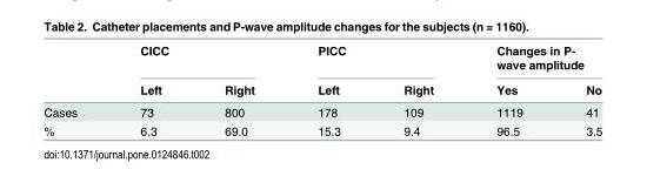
<table><thead><tr><td rowspan="2"></td><td colspan="2">CICC</td><td colspan="2">PICC</td><td colspan="2">Changes in P- wave amplitude</td></tr><tr><td>Left</td><td>Right</td><td>Left</td><td>Right</td><td>Yes</td><td>No</td></tr></thead><tbody><tr><td>Cases</td><td>73</td><td>800</td><td>178</td><td>109</td><td>1119</td><td>41</td></tr><tr><td>%</td><td>6.3</td><td>69.0</td><td>15.3</td><td>9.4</td><td>96.5</td><td>3.5</td></tr></tbody></table>